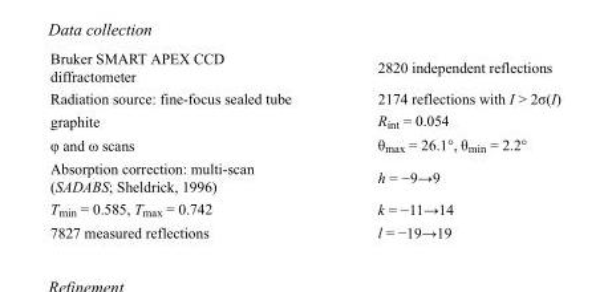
<table><tbody><tr><td>Bruker SMART APEX CCD diffractometer</td><td>2820 independent reflections</td></tr><tr><td>Radiation source: fine-focus sealed tube</td><td>2174 reflections with I &gt; 2σ(I)</td></tr><tr><td>graphite</td><td>R<sub>int</sub> = 0.054</td></tr><tr><td>φ and ω scans</td><td>θ<sub>max</sub> = 26.1°, θ<sub>min</sub> = 2.2°</td></tr><tr><td>Absorption correction: multi-scan (SADABS; Sheldrick, 1996)</td><td>h = −9→9</td></tr><tr><td>T<sub>min</sub> = 0.585, T<sub>max</sub> = 0.742</td><td>k = −11→14</td></tr><tr><td>7827 measured reflections</td><td>l = −19→19</td></tr></tbody></table>